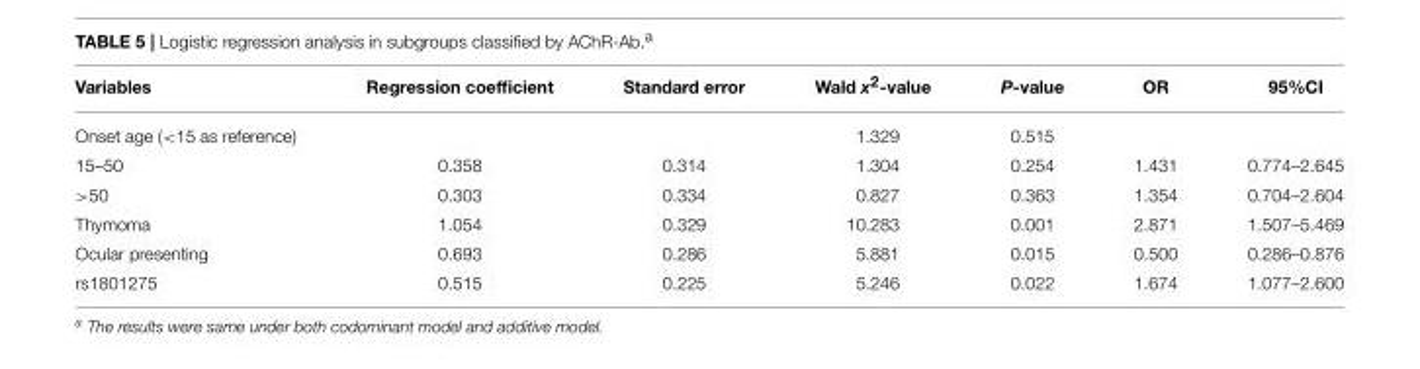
<table><thead><tr><td>Variables</td><td>Regression coefficient</td><td>Standard error</td><td>Wald x<sup>2</sup>-value</td><td>P-value</td><td>OR</td><td>95%CI</td></tr></thead><tbody><tr><td>Onset age (&lt;15 as reference)</td><td></td><td></td><td>1.329</td><td>0.515</td><td></td><td></td></tr><tr><td>15–50</td><td>0.358</td><td>0.314</td><td>1.304</td><td>0.254</td><td>1.431</td><td>0.774–2.645</td></tr><tr><td>&gt;50</td><td>0.303</td><td>0.334</td><td>0.827</td><td>0.363</td><td>1.354</td><td>0.704–2.604</td></tr><tr><td>Thymoma</td><td>1.054</td><td>0.329</td><td>10.283</td><td>0.001</td><td>2.871</td><td>1.507–5.469</td></tr><tr><td>Ocular presenting</td><td>0.693</td><td>0.286</td><td>5.881</td><td>0.015</td><td>0.500</td><td>0.286–0.876</td></tr><tr><td>rs1801275</td><td>0.515</td><td>0.225</td><td>5.246</td><td>0.022</td><td>1.674</td><td>1.077–2.600</td></tr></tbody></table>